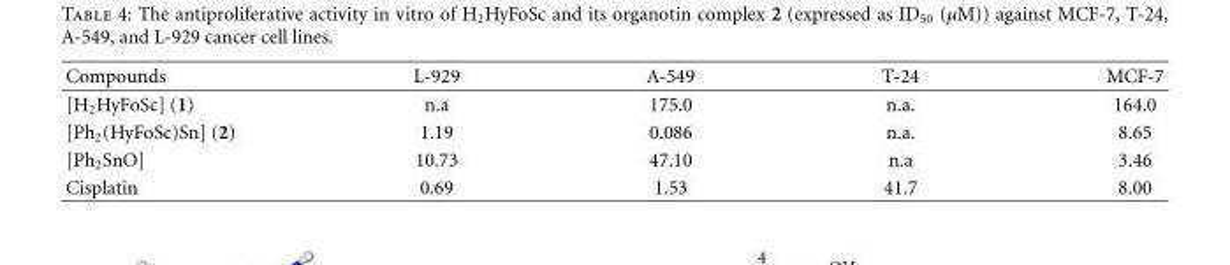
<table><thead><tr><td>Compounds</td><td>L-929</td><td>A-549</td><td>T-24</td><td>MCF-7</td></tr></thead><tbody><tr><td>[H<sub>2</sub>HyFoSc] (1)</td><td>n.a</td><td>175.0</td><td>n.a.</td><td>164.0</td></tr><tr><td>[Ph<sub>2</sub>(HyFoSc)Sn] (2)</td><td>1.19</td><td>0.086</td><td>n.a.</td><td>8.65</td></tr><tr><td>[Ph<sub>2</sub>SnO]</td><td>10.73</td><td>47.10</td><td>n.a</td><td>3.46</td></tr><tr><td>Cisplatin</td><td>0.69</td><td>1.53</td><td>41.7</td><td>8.00</td></tr></tbody></table>